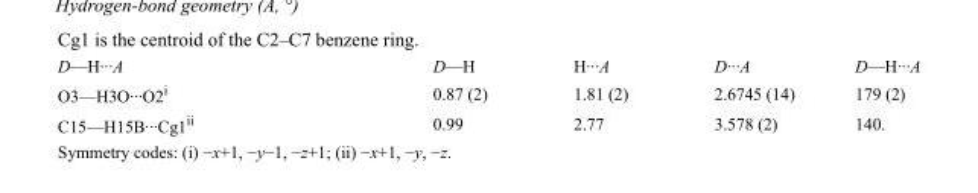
<table><tbody><tr><td>D—H···A</td><td>D—H</td><td>H···A</td><td>D···A</td><td>D—H···A</td></tr><tr><td>O3—H3O···O2<sup>i</sup></td><td>0.87 (2)</td><td>1.81 (2)</td><td>2.6745 (14)</td><td>179 (2)</td></tr><tr><td>C15—H15B···Cg1<sup>ii</sup></td><td>0.99</td><td>2.77</td><td>3.578 (2)</td><td>140.</td></tr></tbody></table>